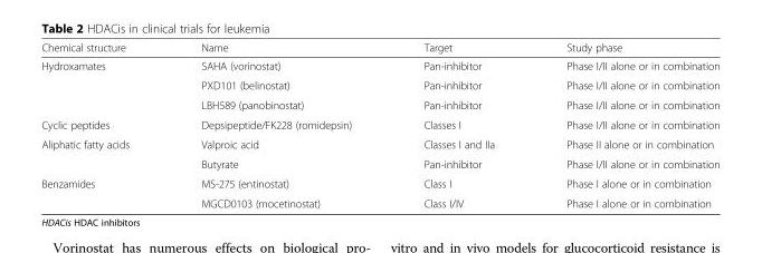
<table><thead><tr><td>Chemical structure</td><td>Name</td><td>Target</td><td>Study phase</td></tr></thead><tbody><tr><td rowspan="3">Hydroxamates</td><td>SAHA (vorinostat)</td><td>Pan-inhibitor</td><td>Phase I/II alone or in combination</td></tr><tr><td>PXD101 (belinostat)</td><td>Pan-inhibitor</td><td>Phase I/II alone or in combination</td></tr><tr><td>LBH589 (panobinostat)</td><td>Pan-inhibitor</td><td>Phase I/II alone or in combination</td></tr><tr><td>Cyclic peptides</td><td>Depsipeptide/FK228 (romidepsin)</td><td>Classes I</td><td>Phase I/II alone or in combination</td></tr><tr><td rowspan="2">Aliphatic fatty acids</td><td>Valproic acid</td><td>Classes I and IIa</td><td>Phase II alone or in combination</td></tr><tr><td>Butyrate</td><td>Pan-inhibitor</td><td>Phase I/II alone or in combination</td></tr><tr><td rowspan="2">Benzamides</td><td>MS-275 (entinostat)</td><td>Class I</td><td>Phase I alone or in combination</td></tr><tr><td>MGCD0103 (mocetinostat)</td><td>Class I/IV</td><td>Phase I alone or in combination</td></tr></tbody></table>